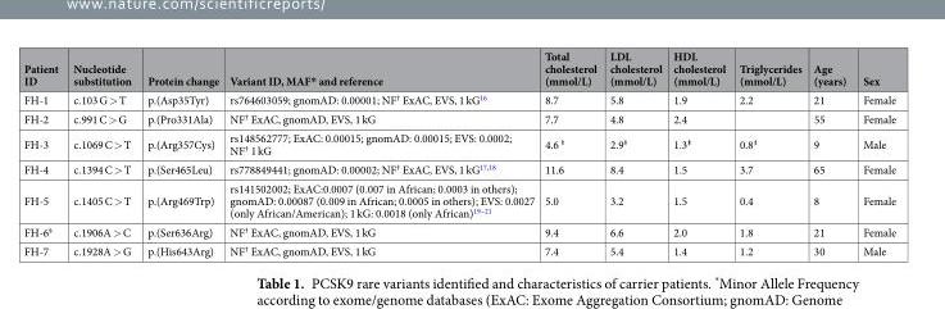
<table><thead><tr><td>Patient ID</td><td>Nucleotide substitution</td><td>Protein change</td><td>Variant ID, MAF* and reference</td><td>Total cholesterol (mmol/L)</td><td>LDL cholesterol (mmol/L)</td><td>HDL cholesterol (mmol/L)</td><td>Triglycerides (mmol/L)</td><td>Age (years)</td><td>Sex</td></tr></thead><tbody><tr><td>FH-1</td><td>c.103 G &gt; T</td><td>p.(Asp35Tyr)</td><td>rs764603059; gnomAD: 0.00001; NF<sup>†</sup> ExAC, EVS, 1 kG<sup>16</sup></td><td>8.7</td><td>5.8</td><td>1.9</td><td>2.2</td><td>21</td><td>Female</td></tr><tr><td>FH-2</td><td>c.991 C &gt; G</td><td>p.(Pro331Ala)</td><td>NF<sup>†</sup> ExAC, gnomAD, EVS, 1 kG</td><td>7.7</td><td>4.8</td><td>2.4</td><td></td><td>55</td><td>Female</td></tr><tr><td>FH-3</td><td>c.1069 C &gt; T</td><td>p.(Arg357Cys)</td><td>rs148562777; ExAC: 0.00015; gnomAD: 0.00015; EVS: 0.0002; NF<sup>†</sup> 1 kG</td><td>4.6 <sup>‡</sup></td><td>2.9<sup>‡</sup></td><td>1.3<sup>‡</sup></td><td>0.8<sup>‡</sup></td><td>9</td><td>Male</td></tr><tr><td>FH-4</td><td>c.1394 C &gt; T</td><td>p.(Ser465Leu)</td><td>rs778849441; gnomAD: 0.00002; NF<sup>†</sup> ExAC, EVS, 1 kG<sup>17,18</sup></td><td>11.6</td><td>8.4</td><td>1.5</td><td>3.7</td><td>65</td><td>Female</td></tr><tr><td>FH-5</td><td>c.1405 C &gt; T</td><td>p.(Arg469Trp)</td><td>rs141502002; ExAC:0.0007 (0.007 in African; 0.0003 in others); gnomAD: 0.00087 (0.009 in African; 0.0005 in others); EVS: 0.0027 (only African/American); 1 kG: 0.0018 (only African)<sup>19–21</sup></td><td>5.0</td><td>3.2</td><td>1.5</td><td>0.4</td><td>8</td><td>Female</td></tr><tr><td>FH-6<sup>§</sup></td><td>c.1906A &gt; C</td><td>p.(Ser636Arg)</td><td>NF<sup>†</sup> ExAC, gnomAD, EVS, 1 kG</td><td>9.4</td><td>6.6</td><td>2.0</td><td>1.8</td><td>21</td><td>Female</td></tr><tr><td>FH-7</td><td>c.1928A &gt; G</td><td>p.(His643Arg)</td><td>NF<sup>†</sup> ExAC, gnomAD, EVS, 1 kG</td><td>7.4</td><td>5.4</td><td>1.4</td><td>1.2</td><td>30</td><td>Male</td></tr></tbody></table>